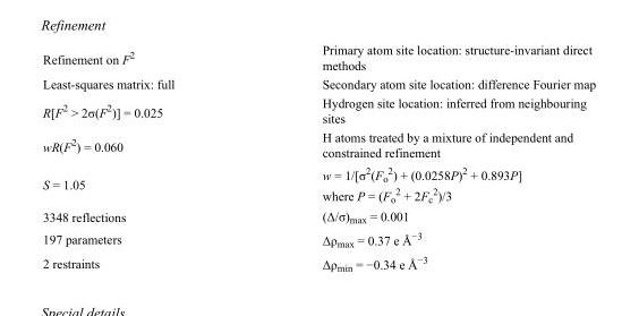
<table><tbody><tr><td>Refinement on F<sup>2</sup></td><td>Primary atom site location: structure-invariant direct methods</td></tr><tr><td>Least-squares matrix: full</td><td>Secondary atom site location: difference Fourier map</td></tr><tr><td>R[F<sup>2</sup> &gt; 2σ(F<sup>2</sup>)] = 0.025</td><td>Hydrogen site location: inferred from neighbouring sites</td></tr><tr><td>wR(F<sup>2</sup>) = 0.060</td><td>H atoms treated by a mixture of independent and constrained refinement</td></tr><tr><td>S = 1.05</td><td>w = 1/[σ<sup>2</sup>(F<sub>o</sub> <sup>2</sup>) + (0.0258P)<sup>2</sup> + 0.893P] where P = (F<sub>o</sub> <sup>2</sup> + 2F<sub>c</sub> <sup>2</sup>)/3</td></tr><tr><td>3348 reflections</td><td>(Δ/σ)<sub>max</sub> = 0.001</td></tr><tr><td>197 parameters</td><td>Δρ<sub>max</sub> = 0.37 e Å<sup>−3</sup></td></tr><tr><td>2 restraints</td><td>Δρ<sub>min</sub> = −0.34 e Å<sup>−3</sup></td></tr></tbody></table>